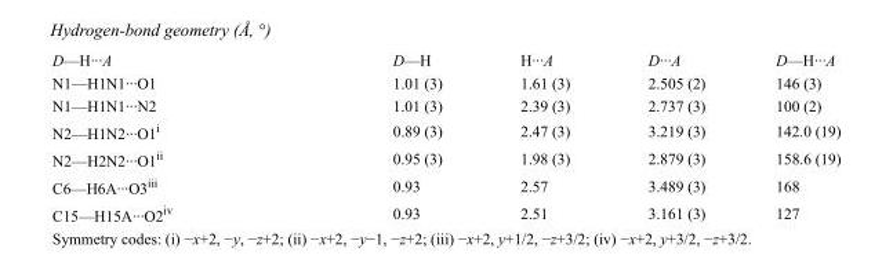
<table><tbody><tr><td>D—H···A</td><td>D—H</td><td>H···A</td><td>D···A</td><td>D—H···A</td></tr><tr><td>N1—H1N1···O1</td><td>1.01 (3)</td><td>1.61 (3)</td><td>2.505 (2)</td><td>146 (3)</td></tr><tr><td>N1—H1N1···N2</td><td>1.01 (3)</td><td>2.39 (3)</td><td>2.737 (3)</td><td>100 (2)</td></tr><tr><td>N2—H1N2···O1<sup>i</sup></td><td>0.89 (3)</td><td>2.47 (3)</td><td>3.219 (3)</td><td>142.0 (19)</td></tr><tr><td>N2—H2N2···O1<sup>ii</sup></td><td>0.95 (3)</td><td>1.98 (3)</td><td>2.879 (3)</td><td>158.6 (19)</td></tr><tr><td>C6—H6A···O3<sup>iii</sup></td><td>0.93</td><td>2.57</td><td>3.489 (3)</td><td>168</td></tr><tr><td>C15—H15A···O2<sup>iv</sup></td><td>0.93</td><td>2.51</td><td>3.161 (3)</td><td>127</td></tr></tbody></table>